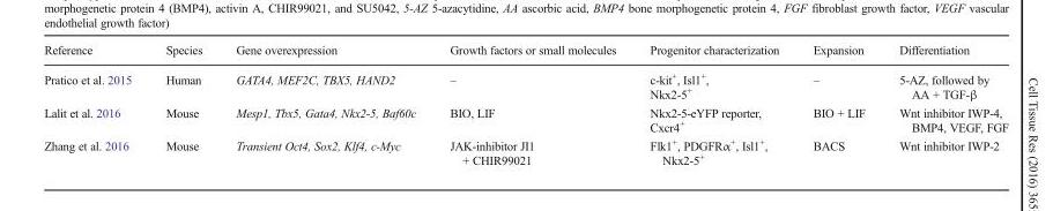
<table><thead><tr><td>Reference</td><td>Species</td><td>Gene overexpression</td><td>Growth factors or small molecules</td><td>Progenitor characterization</td><td>Expansion</td><td>Differentiation</td></tr></thead><tbody><tr><td>Pratico et al. 2015</td><td>Human</td><td>GATA4, MEF2C, TBX5, HAND2</td><td>–</td><td>c-kit<sup>+</sup>, Isl1<sup>+</sup>, Nkx2-5<sup>+</sup></td><td>–</td><td>5-AZ, followed by AA + TGF-β</td></tr><tr><td>Lalit et al. 2016</td><td>Mouse</td><td>Mesp1, Tbx5, Gata4, Nkx2-5, Baf60c</td><td>BIO, LIF</td><td>Nkx2-5-eYFP reporter, Cxcr4<sup>+</sup></td><td>BIO + LIF</td><td>Wnt inhibitor IWP-4, BMP4, VEGF, FGF</td></tr><tr><td>Zhang et al. 2016</td><td>Mouse</td><td>Transient Oct4, Sox2, Klf4, c-Myc</td><td>JAK-inhibitor JI1 + CHIR99021</td><td>Flk1<sup>+</sup>, PDGFRα<sup>+</sup>, Isl1<sup>+</sup>, Nkx2-5<sup>+</sup></td><td>BACS</td><td>Wnt inhibitor IWP-2</td></tr></tbody></table>